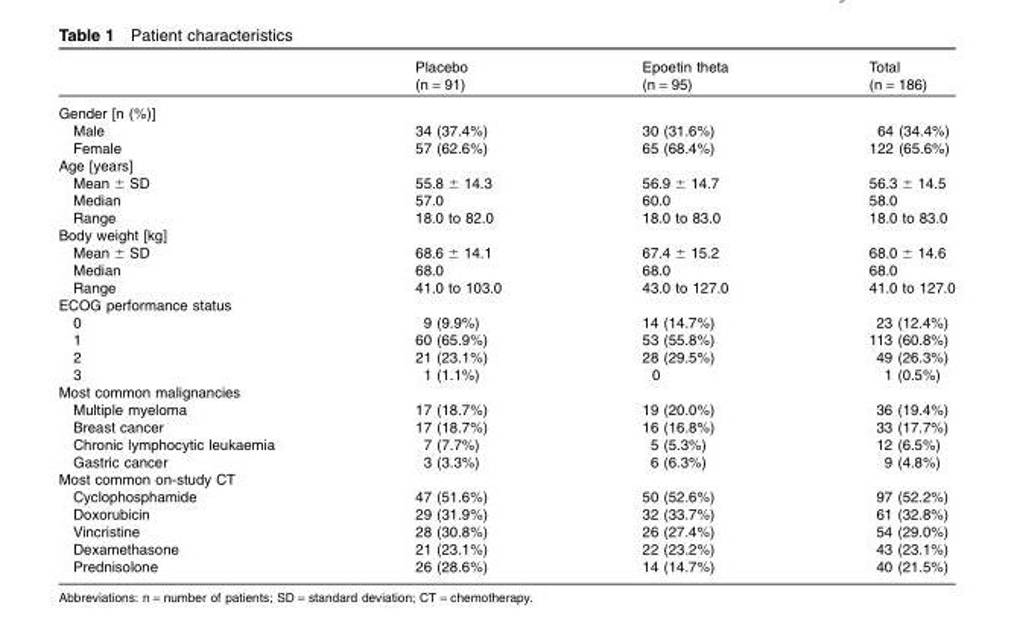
<table><thead><tr><td></td><td>Placebo (n = 91)</td><td>Epoetin theta (n = 95)</td><td>Total (n = 186)</td></tr></thead><tbody><tr><td colspan="4">Gender [n (%)]</td></tr><tr><td>Male</td><td>34 (37.4%)</td><td>30 (31.6%)</td><td>64 (34.4%)</td></tr><tr><td>Female</td><td>57 (62.6%)</td><td>65 (68.4%)</td><td>122 (65.6%)</td></tr><tr><td colspan="4">Age [years]</td></tr><tr><td>Mean ± SD</td><td>55.8 ± 14.3</td><td>56.9 ± 14.7</td><td>56.3 ± 14.5</td></tr><tr><td>Median</td><td>57.0</td><td>60.0</td><td>58.0</td></tr><tr><td>Range</td><td>18.0 to 82.0</td><td>18.0 to 83.0</td><td>18.0 to 83.0</td></tr><tr><td colspan="4">Body weight [kg]</td></tr><tr><td>Mean ± SD</td><td>68.6 ± 14.1</td><td>67.4 ± 15.2</td><td>68.0 ± 14.6</td></tr><tr><td>Median</td><td>68.0</td><td>68.0</td><td>68.0</td></tr><tr><td>Range</td><td>41.0 to 103.0</td><td>43.0 to 127.0</td><td>41.0 to 127.0</td></tr><tr><td colspan="4">ECOG performance status</td></tr><tr><td>0</td><td>9 (9.9%)</td><td>14 (14.7%)</td><td>23 (12.4%)</td></tr><tr><td>1</td><td>60 (65.9%)</td><td>53 (55.8%)</td><td>113 (60.8%)</td></tr><tr><td>2</td><td>21 (23.1%)</td><td>28 (29.5%)</td><td>49 (26.3%)</td></tr><tr><td>3</td><td>1 (1.1%)</td><td>0</td><td>1 (0.5%)</td></tr><tr><td colspan="4">Most common malignancies</td></tr><tr><td>Multiple myeloma</td><td>17 (18.7%)</td><td>19 (20.0%)</td><td>36 (19.4%)</td></tr><tr><td>Breast cancer</td><td>17 (18.7%)</td><td>16 (16.8%)</td><td>33 (17.7%)</td></tr><tr><td>Chronic lymphocytic leukaemia</td><td>7 (7.7%)</td><td>5 (5.3%)</td><td>12 (6.5%)</td></tr><tr><td>Gastric cancer</td><td>3 (3.3%)</td><td>6 (6.3%)</td><td>9 (4.8%)</td></tr><tr><td colspan="4">Most common on-study CT</td></tr><tr><td>Cyclophosphamide</td><td>47 (51.6%)</td><td>50 (52.6%)</td><td>97 (52.2%)</td></tr><tr><td>Doxorubicin</td><td>29 (31.9%)</td><td>32 (33.7%)</td><td>61 (32.8%)</td></tr><tr><td>Vincristine</td><td>28 (30.8%)</td><td>26 (27.4%)</td><td>54 (29.0%)</td></tr><tr><td>Dexamethasone</td><td>21 (23.1%)</td><td>22 (23.2%)</td><td>43 (23.1%)</td></tr><tr><td>Prednisolone</td><td>26 (28.6%)</td><td>14 (14.7%)</td><td>40 (21.5%)</td></tr></tbody></table>